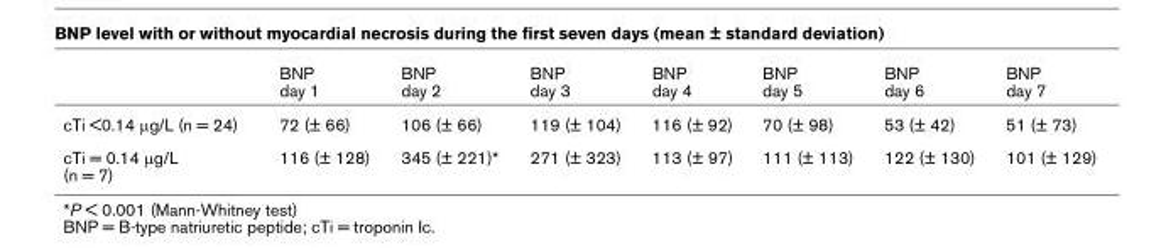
<table><thead><tr><td></td><td>BNP day 1</td><td>BNP day 2</td><td>BNP day 3</td><td>BNP day 4</td><td>BNP day 5</td><td>BNP day 6</td><td>BNP day 7</td></tr></thead><tbody><tr><td>cTi &lt;0.14 μg/L (n = 24)</td><td>72 (± 66)</td><td>106 (± 66)</td><td>119 (± 104)</td><td>116 (± 92)</td><td>70 (± 98)</td><td>53 (± 42)</td><td>51 (± 73)</td></tr><tr><td>cTi = 0.14 μg/L (n = 7)</td><td>116 (± 128)</td><td>345 (± 221)*</td><td>271 (± 323)</td><td>113 (± 97)</td><td>111 (± 113)</td><td>122 (± 130)</td><td>101 (± 129)</td></tr></tbody></table>